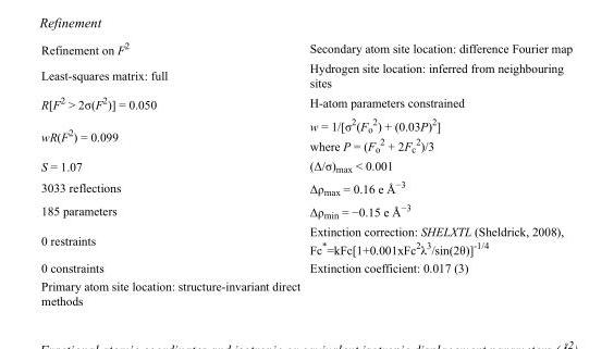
<table><tbody><tr><td>Refinement on F<sup>2</sup></td><td>Secondary atom site location: difference Fourier map</td></tr><tr><td>Least-squares matrix: full</td><td>Hydrogen site location: inferred from neighbouring sites</td></tr><tr><td>R[F<sup>2</sup> &gt; 2σ(F<sup>2</sup>)] = 0.050</td><td>H-atom parameters constrained</td></tr><tr><td>wR(F<sup>2</sup>) = 0.099</td><td>w = 1/[σ<sup>2</sup>(F<sub>o</sub> <sup>2</sup>) + (0.03P)<sup>2</sup>] where P = (F<sub>o</sub> <sup>2</sup> + 2F<sub>c</sub> <sup>2</sup>)/3</td></tr><tr><td>S = 1.07</td><td>(Δ/σ)<sub>max</sub> &lt; 0.001</td></tr><tr><td>3033 reflections</td><td>Δρ<sub>max</sub> = 0.16 e Å<sup>−3</sup></td></tr><tr><td>185 parameters</td><td>Δρ<sub>min</sub> = −0.15 e Å<sup>−3</sup></td></tr><tr><td>0 restraints</td><td>Extinction correction: SHELXTL (Sheldrick, 2008), Fc*=kFc[1+0.001xFc<sup>2</sup>λ<sup>3</sup>/sin(2θ)]<sup>-1/4</sup></td></tr><tr><td>0 constraints</td><td>Extinction coefficient: 0.017 (3)</td></tr><tr><td>Primary atom site location: structure-invariant direct methods</td><td></td></tr></tbody></table>